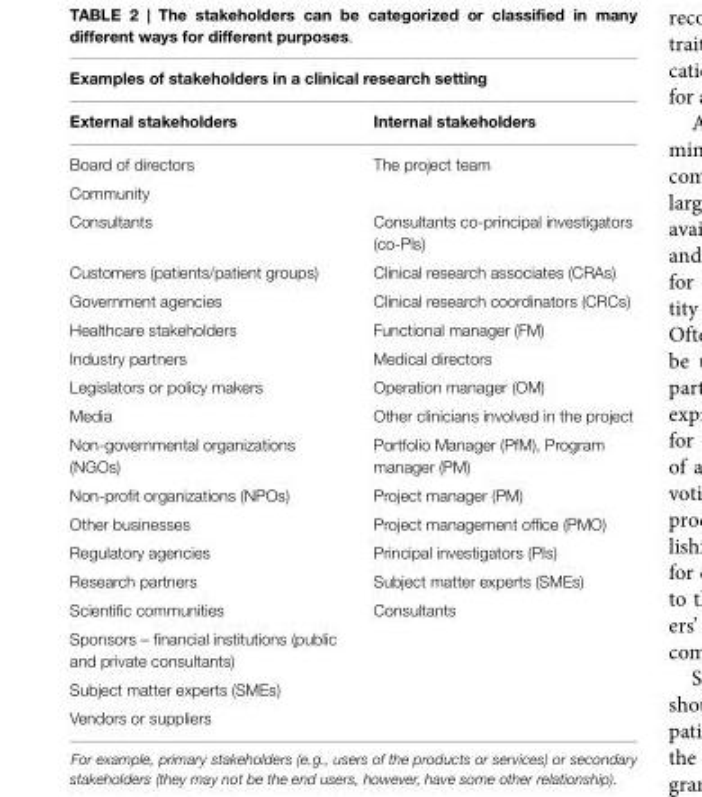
<table><thead><tr><td colspan="2">Examples of stakeholders in a clinical research setting</td></tr><tr><td>External stakeholders</td><td>Internal stakeholders</td></tr></thead><tbody><tr><td>Board of directors</td><td>The project team</td></tr><tr><td colspan="2">Community</td></tr><tr><td>Consultants</td><td>Consultants co-principal investigators (co-Pls)</td></tr><tr><td>Customers (patients/patient groups)</td><td>Clinical research associates (CRAs)</td></tr><tr><td>Government agencies</td><td>Clinical research coordinators (CRCs)</td></tr><tr><td>Healthcare stakeholders</td><td>Functional manager (FM)</td></tr><tr><td>Industry partners</td><td>Medical directors</td></tr><tr><td>Legislators or policy makers</td><td>Operation manager (OM)</td></tr><tr><td>Media</td><td>Other clinicians involved in the project</td></tr><tr><td>Non-governmental organizations (NGOs)</td><td>Portfolio Manager (PfM), Program manager (PM)</td></tr><tr><td>Non-profit organizations (NPOs)</td><td>Project manager (PM)</td></tr><tr><td>Other businesses</td><td>Project management office (PMO)</td></tr><tr><td>Regulatory agencies</td><td>Principal investigators (PIs)</td></tr><tr><td>Research partners</td><td>Subject matter experts (SMEs)</td></tr><tr><td>Scientific communities</td><td>Consultants</td></tr><tr><td colspan="2">Sponsors – financial institutions (public and private consultants)</td></tr><tr><td colspan="2">Subject matter experts (SMEs)</td></tr><tr><td>Vendors or suppliers</td><td></td></tr></tbody></table>